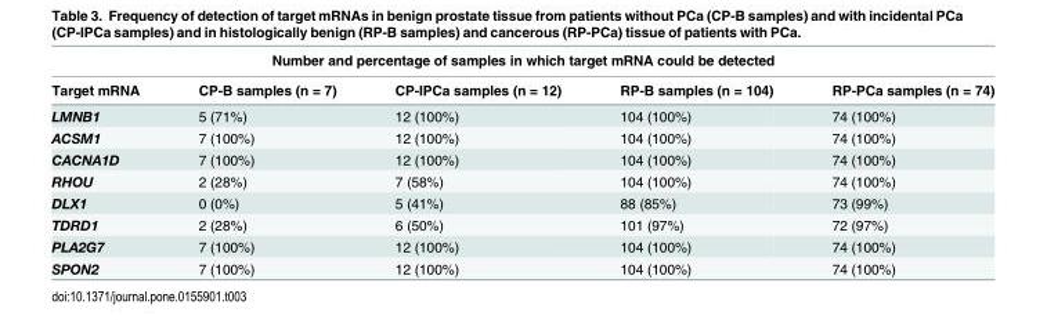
<table><thead><tr><td colspan="5">Number and percentage of samples in which target mRNA could be detected</td></tr><tr><td>Target mRNA</td><td>CP-B samples (n = 7)</td><td>CP-IPCa samples (n = 12)</td><td>RP-B samples (n = 104)</td><td>RP-PCa samples (n = 74)</td></tr></thead><tbody><tr><td>LMNB1</td><td>5 (71%)</td><td>12 (100%)</td><td>104 (100%)</td><td>74 (100%)</td></tr><tr><td>ACSM1</td><td>7 (100%)</td><td>12 (100%)</td><td>104 (100%)</td><td>74 (100%)</td></tr><tr><td>CACNA1D</td><td>7 (100%)</td><td>12 (100%)</td><td>104 (100%)</td><td>74 (100%)</td></tr><tr><td>RHOU</td><td>2 (28%)</td><td>7 (58%)</td><td>104 (100%)</td><td>74 (100%)</td></tr><tr><td>DLX1</td><td>0 (0%)</td><td>5 (41%)</td><td>88 (85%)</td><td>73 (99%)</td></tr><tr><td>TDRD1</td><td>2 (28%)</td><td>6 (50%)</td><td>101 (97%)</td><td>72 (97%)</td></tr><tr><td>PLA2G7</td><td>7 (100%)</td><td>12 (100%)</td><td>104 (100%)</td><td>74 (100%)</td></tr><tr><td>SPON2</td><td>7 (100%)</td><td>12 (100%)</td><td>104 (100%)</td><td>74 (100%)</td></tr></tbody></table>